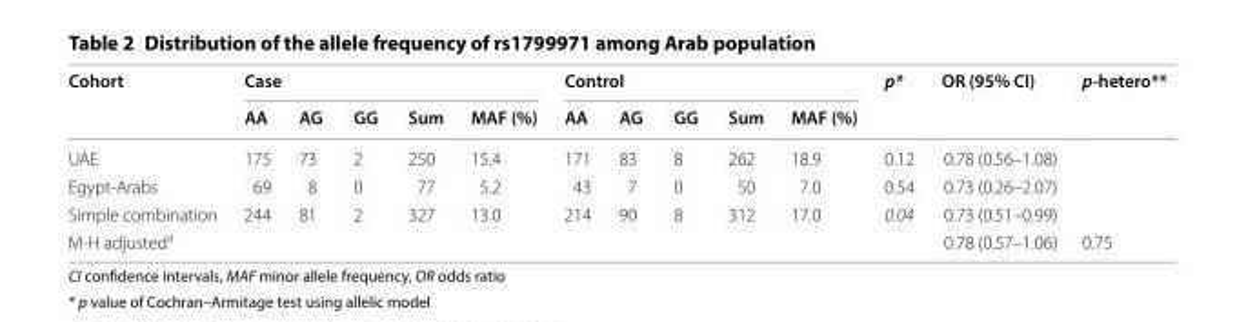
<table><thead><tr><td rowspan="2">Cohort</td><td colspan="5">Case</td><td colspan="5">Control</td><td rowspan="2">p*</td><td rowspan="2">OR (95% CI)</td><td rowspan="2">p-hetero**</td></tr><tr><td>AA</td><td>AG</td><td>GG</td><td>Sum</td><td>MAF (%)</td><td>AA</td><td>AG</td><td>GG</td><td>Sum</td><td>MAF (%)</td></tr></thead><tbody><tr><td>UAE</td><td>175</td><td>73</td><td>2</td><td>250</td><td>15.4</td><td>171</td><td>83</td><td>8</td><td>262</td><td>18.9</td><td>0.12</td><td>0.78 (0.56–1.08)</td><td></td></tr><tr><td>Egypt-Arabs</td><td>69</td><td>8</td><td>0</td><td>77</td><td>5.2</td><td>43</td><td>7</td><td>0</td><td>50</td><td>7.0</td><td>0.54</td><td>0.73 (0.26–2.07)</td><td></td></tr><tr><td>Simple combination</td><td>244</td><td>81</td><td>2</td><td>327</td><td>13.0</td><td>214</td><td>90</td><td>8</td><td>312</td><td>17.0</td><td>0.04</td><td>0.73 (0.51–0.99)</td><td></td></tr><tr><td>M-H adjusted<sup>a</sup></td><td></td><td></td><td></td><td></td><td></td><td></td><td></td><td></td><td></td><td></td><td></td><td>0.78 (0.57–1.06)</td><td>0.75</td></tr></tbody></table>